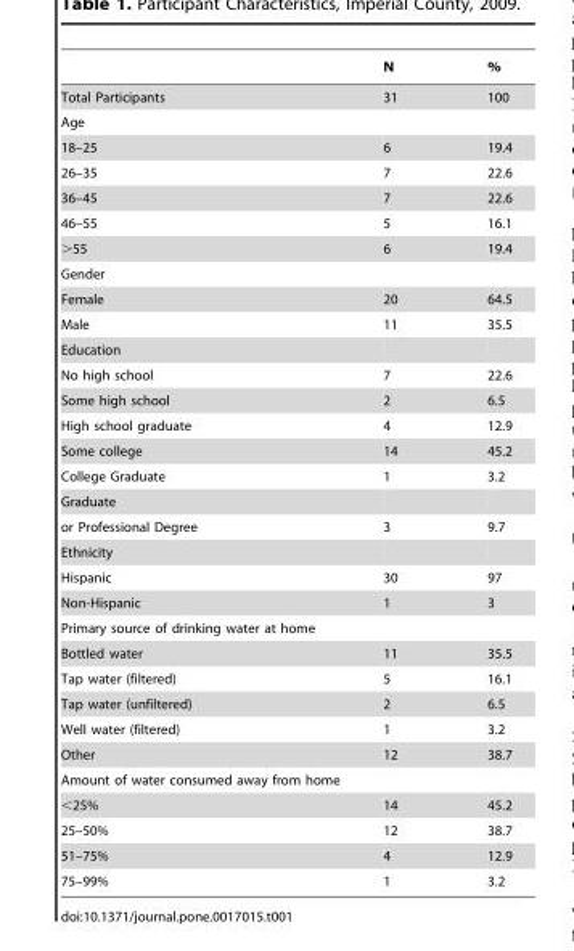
<table><thead><tr><td></td><td>N</td><td>%</td></tr></thead><tbody><tr><td>Total Participants</td><td>31</td><td>100</td></tr><tr><td colspan="3">Age</td></tr><tr><td>18–25</td><td>6</td><td>19.4</td></tr><tr><td>26–35</td><td>7</td><td>22.6</td></tr><tr><td>36–45</td><td>7</td><td>22.6</td></tr><tr><td>46–55</td><td>5</td><td>16.1</td></tr><tr><td>&gt;55</td><td>6</td><td>19.4</td></tr><tr><td colspan="3">Gender</td></tr><tr><td>Female</td><td>20</td><td>64.5</td></tr><tr><td>Male</td><td>11</td><td>35.5</td></tr><tr><td colspan="3">Education</td></tr><tr><td>No high school</td><td>7</td><td>22.6</td></tr><tr><td>Some high school</td><td>2</td><td>6.5</td></tr><tr><td>High school graduate</td><td>4</td><td>12.9</td></tr><tr><td>Some college</td><td>14</td><td>45.2</td></tr><tr><td>College Graduate</td><td>1</td><td>3.2</td></tr><tr><td colspan="3">Graduate</td></tr><tr><td>or Professional Degree</td><td>3</td><td>9.7</td></tr><tr><td colspan="3">Ethnicity</td></tr><tr><td>Hispanic</td><td>30</td><td>97</td></tr><tr><td>Non-Hispanic</td><td>1</td><td>3</td></tr><tr><td colspan="3">Primary source of drinking water at home</td></tr><tr><td>Bottled water</td><td>11</td><td>35.5</td></tr><tr><td>Tap water (filtered)</td><td>5</td><td>16.1</td></tr><tr><td>Tap water (unfiltered)</td><td>2</td><td>6.5</td></tr><tr><td>Well water (filtered)</td><td>1</td><td>3.2</td></tr><tr><td>Other</td><td>12</td><td>38.7</td></tr><tr><td colspan="3">Amount of water consumed away from home</td></tr><tr><td>&lt;25%</td><td>14</td><td>45.2</td></tr><tr><td>25–50%</td><td>12</td><td>38.7</td></tr><tr><td>51–75%</td><td>4</td><td>12.9</td></tr><tr><td>75–99%</td><td>1</td><td>3.2</td></tr></tbody></table>